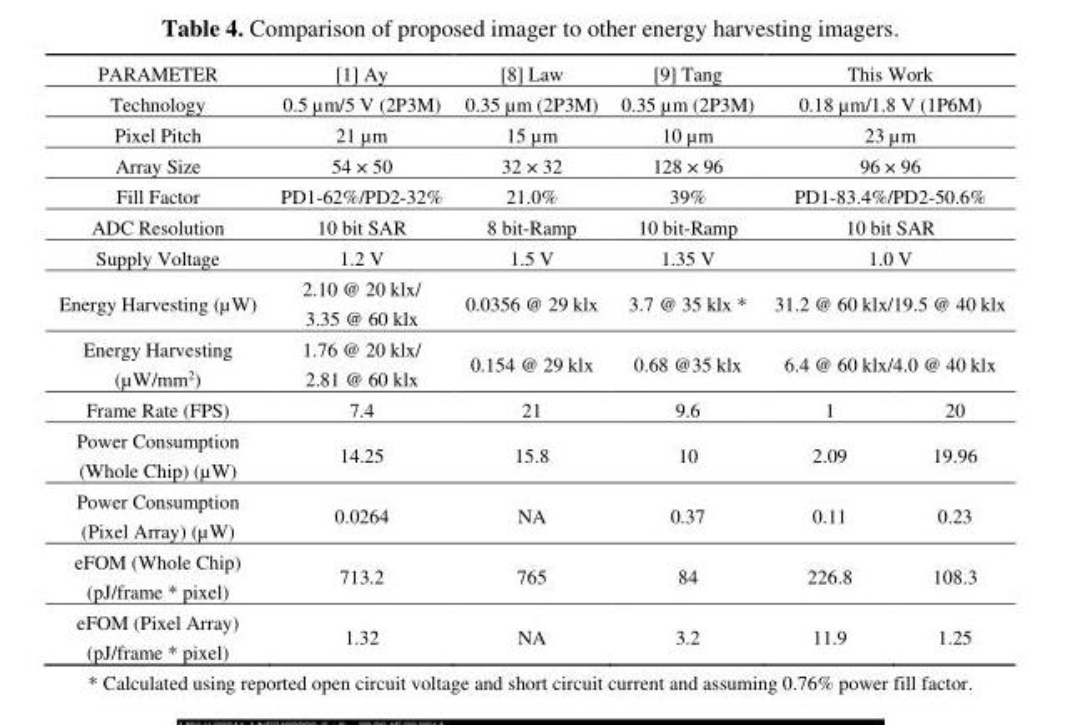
<table><thead><tr><td>PARAMETER</td><td>[1] Ay</td><td>[8] Law</td><td>[9] Tang</td><td colspan="2">This Work</td></tr></thead><tbody><tr><td>Technology</td><td>0.5 µm/5 V (2P3M)</td><td>0.35 µm (2P3M)</td><td>0.35 µm (2P3M)</td><td colspan="2">0.18 µm/1.8 V (1P6M)</td></tr><tr><td>Pixel Pitch</td><td>21 µm</td><td>15 µm</td><td>10 µm</td><td colspan="2">23 µm</td></tr><tr><td>Array Size</td><td>54 × 50</td><td>32 × 32</td><td>128 × 96</td><td colspan="2">96 × 96</td></tr><tr><td>Fill Factor</td><td>PD1-62%/PD2-32%</td><td>21.0%</td><td>39%</td><td colspan="2">PD1-83.4%/PD2-50.6%</td></tr><tr><td>ADC Resolution</td><td>10 bit SAR</td><td>8 bit-Ramp</td><td>10 bit-Ramp</td><td colspan="2">10 bit SAR</td></tr><tr><td>Supply Voltage</td><td>1.2 V</td><td>1.5 V</td><td>1.35 V</td><td colspan="2">1.0 V</td></tr><tr><td>Energy Harvesting (µW)</td><td>2.10 @ 20 klx/ 3.35 @ 60 klx</td><td>0.0356 @ 29 klx</td><td>3.7 @ 35 klx *</td><td colspan="2">31.2 @ 60 klx/19.5 @ 40 klx</td></tr><tr><td>Energy Harvesting (µW/mm<sup>2</sup>)</td><td>1.76 @ 20 klx/ 2.81 @ 60 klx</td><td>0.154 @ 29 klx</td><td>0.68 @35 klx</td><td colspan="2">6.4 @ 60 klx/4.0 @ 40 klx</td></tr><tr><td>Frame Rate (FPS)</td><td>7.4</td><td>21</td><td>9.6</td><td>1</td><td>20</td></tr><tr><td>Power Consumption (Whole Chip) (µW)</td><td>14.25</td><td>15.8</td><td>10</td><td>2.09</td><td>19.96</td></tr><tr><td>Power Consumption (Pixel Array) (µW)</td><td>0.0264</td><td>NA</td><td>0.37</td><td>0.11</td><td>0.23</td></tr><tr><td>eFOM (Whole Chip) (pJ/frame * pixel)</td><td>713.2</td><td>765</td><td>84</td><td>226.8</td><td>108.3</td></tr><tr><td>eFOM (Pixel Array) (pJ/frame * pixel)</td><td>1.32</td><td>NA</td><td>3.2</td><td>11.9</td><td>1.25</td></tr></tbody></table>